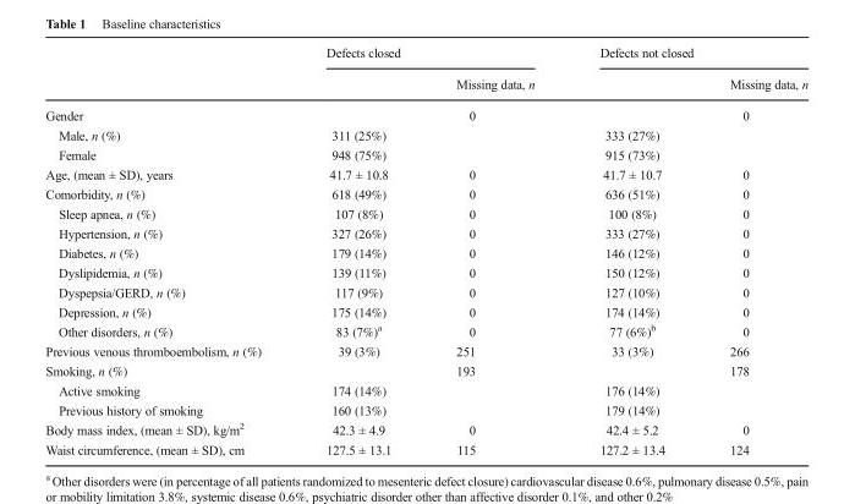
<table><thead><tr><td rowspan="2"></td><td colspan="2">Defects closed</td><td colspan="2">Defects not closed</td></tr><tr><td></td><td>Missing data, n</td><td></td><td>Missing data, n</td></tr></thead><tbody><tr><td>Gender</td><td></td><td>0</td><td></td><td>0</td></tr><tr><td>Male, n (%)</td><td>311 (25%)</td><td></td><td>333 (27%)</td><td></td></tr><tr><td>Female</td><td>948 (75%)</td><td></td><td>915 (73%)</td><td></td></tr><tr><td>Age, (mean ± SD), years</td><td>41.7 ± 10.8</td><td>0</td><td>41.7 ± 10.7</td><td>0</td></tr><tr><td>Comorbidity, n (%)</td><td>618 (49%)</td><td>0</td><td>636 (51%)</td><td>0</td></tr><tr><td>Sleep apnea, n (%)</td><td>107 (8%)</td><td>0</td><td>100 (8%)</td><td>0</td></tr><tr><td>Hypertension, n (%)</td><td>327 (26%)</td><td>0</td><td>333 (27%)</td><td>0</td></tr><tr><td>Diabetes, n (%)</td><td>179 (14%)</td><td>0</td><td>146 (12%)</td><td>0</td></tr><tr><td>Dyslipidemia, n (%)</td><td>139 (11%)</td><td>0</td><td>150 (12%)</td><td>0</td></tr><tr><td>Dyspepsia/GERD, n (%)</td><td>117 (9%)</td><td>0</td><td>127 (10%)</td><td>0</td></tr><tr><td>Depression, n (%)</td><td>175 (14%)</td><td>0</td><td>174 (14%)</td><td>0</td></tr><tr><td>Other disorders, n (%)</td><td>83 (7%)<sup>a</sup></td><td>0</td><td>77 (6%)<sup>b</sup></td><td>0</td></tr><tr><td>Previous venous thromboembolism, n (%)</td><td>39 (3%)</td><td>251</td><td>33 (3%)</td><td>266</td></tr><tr><td>Smoking, n (%)</td><td></td><td>193</td><td></td><td>178</td></tr><tr><td>Active smoking</td><td>174 (14%)</td><td></td><td>176 (14%)</td><td></td></tr><tr><td>Previous history of smoking</td><td>160 (13%)</td><td></td><td>179 (14%)</td><td></td></tr><tr><td>Body mass index, (mean ± SD), kg/m<sup>2</sup></td><td>42.3 ± 4.9</td><td>0</td><td>42.4 ± 5.2</td><td>0</td></tr><tr><td>Waist circumference, (mean ± SD), cm</td><td>127.5 ± 13.1</td><td>115</td><td>127.2 ± 13.4</td><td>124</td></tr></tbody></table>